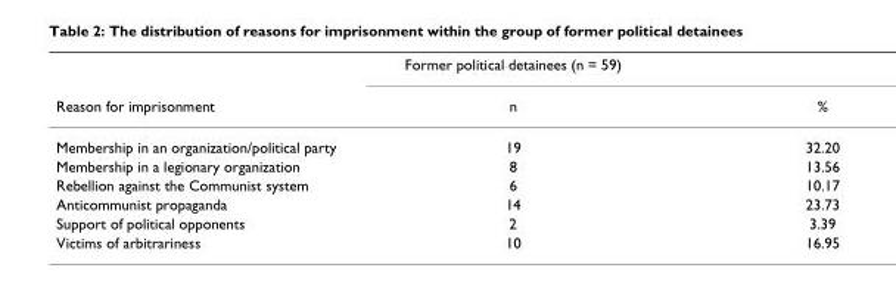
<table><thead><tr><td rowspan="2">Reason for imprisonment</td><td rowspan="2">Former political detainees (n = 59) n</td><td rowspan="2">%</td></tr><tr></tr></thead><tbody><tr><td>Membership in an organization/political party</td><td>19</td><td>32.20</td></tr><tr><td>Membership in a legionary organization</td><td>8</td><td>13.56</td></tr><tr><td>Rebellion against the Communist system</td><td>6</td><td>10.17</td></tr><tr><td>Anticommunist propaganda</td><td>14</td><td>23.73</td></tr><tr><td>Support of political opponents</td><td>2</td><td>3.39</td></tr><tr><td>Victims of arbitrariness</td><td>10</td><td>16.95</td></tr></tbody></table>